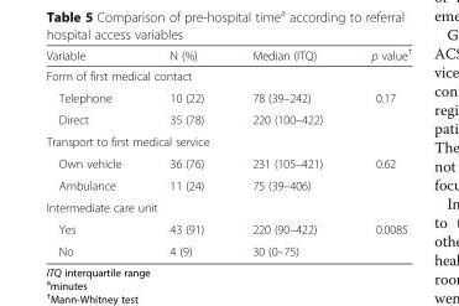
<table><thead><tr><td>Variable</td><td>N (%)</td><td>Median (ITQ)</td><td>p value<sup>†</sup></td></tr></thead><tbody><tr><td colspan="4">Form of first medical contact</td></tr><tr><td>Telephone</td><td>10 (22)</td><td>78 (39–242)</td><td>0.17</td></tr><tr><td>Direct</td><td>35 (78)</td><td>220 (100–422)</td><td></td></tr><tr><td colspan="4">Transport to first medical service</td></tr><tr><td>Own vehicle</td><td>36 (76)</td><td>231 (105–421)</td><td>0.62</td></tr><tr><td>Ambulance</td><td>11 (24)</td><td>75 (39–406)</td><td></td></tr><tr><td colspan="4">Intermediate care unit</td></tr><tr><td>Yes</td><td>43 (91)</td><td>220 (90–422)</td><td>0.0085</td></tr><tr><td>No</td><td>4 (9)</td><td>30 (0–75)</td><td></td></tr></tbody></table>